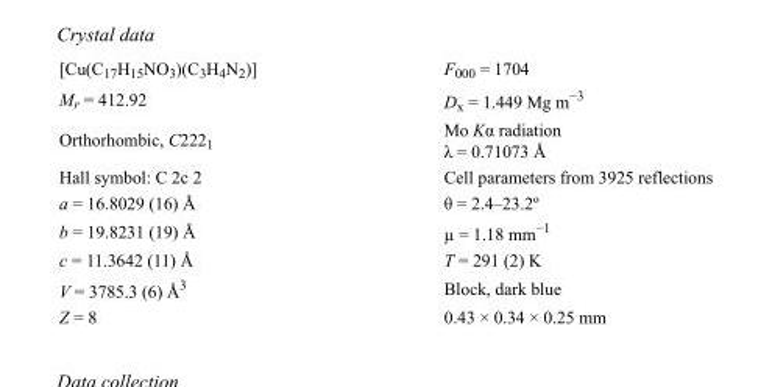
<table><tbody><tr><td>[Cu(C<sub>17</sub>H<sub>15</sub>NO<sub>3</sub>)(C<sub>3</sub>H<sub>4</sub>N<sub>2</sub>)]</td><td>F000 = 1704</td></tr><tr><td>M<sub>r</sub> = 412.92</td><td>D<sub>x</sub> = 1.449 Mg m<sup>−3</sup></td></tr><tr><td>Orthorhombic, C222<sub>1</sub></td><td>Mo Kα radiation λ = 0.71073 Å</td></tr><tr><td>Hall symbol: C 2c 2</td><td>Cell parameters from 3925 reflections</td></tr><tr><td>a = 16.8029 (16) Å</td><td>θ = 2.4–23.2º</td></tr><tr><td>b = 19.8231 (19) Å</td><td>µ = 1.18 mm<sup>−1</sup></td></tr><tr><td>c = 11.3642 (11) Å</td><td>T = 291 (2) K</td></tr><tr><td>V = 3785.3 (6) Å<sup>3</sup></td><td>Block, dark blue</td></tr><tr><td>Z = 8</td><td>0.43 × 0.34 × 0.25 mm</td></tr></tbody></table>